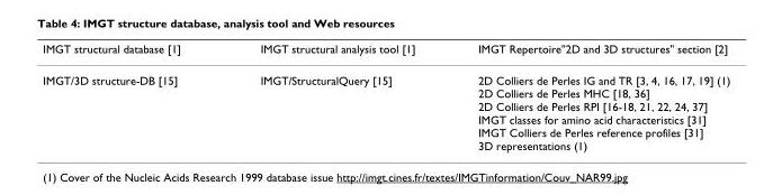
<table><thead><tr><td>IMGT structural database [1]</td><td>IMGT structural analysis tool [1]</td><td>IMGT Repertoire&quot;2D and 3D structures&quot; section [2]</td></tr></thead><tbody><tr><td>IMGT/3D structure-DB [15]</td><td>IMGT/StructuralQuery [15]</td><td>2D Colliers de Perles IG and TR [3, 4, 16, 17, 19] (1) 2D Colliers de Perles MHC [18, 36] 2D Colliers de Perles RPI [16-18, 21, 22, 24, 37] IMGT classes for amino acid characteristics [31] IMGT Colliers de Perles reference profiles [31] 3D representations (1)</td></tr></tbody></table>